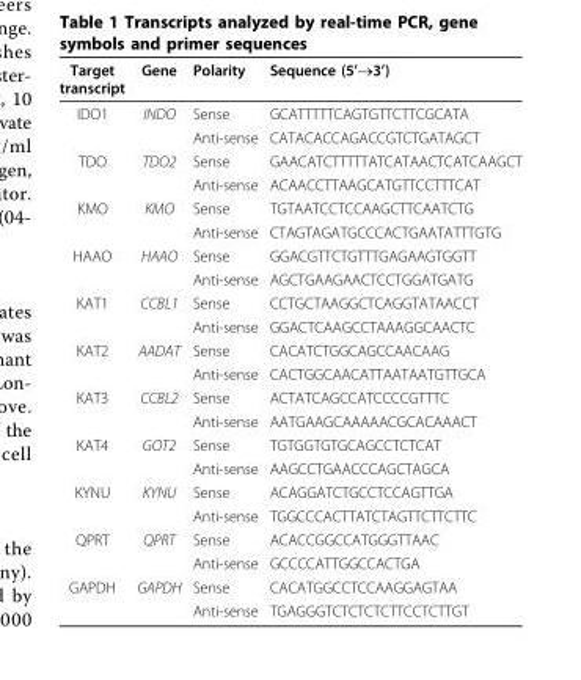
<table><thead><tr><td>Target transcript</td><td>Gene</td><td>Polarity</td><td>Sequence (5’→3’)</td></tr></thead><tbody><tr><td rowspan="2">IDO1</td><td>INDO</td><td>Sense</td><td>GCATTTTTCAGTGTTCTTCGCATA</td></tr><tr><td></td><td>Anti-sense</td><td>CATACACCAGACCGTCTGATAGCT</td></tr><tr><td rowspan="2">TDO</td><td>TDO2</td><td>Sense</td><td>GAACATCTTTTTATCATAACTCATCAAGCT</td></tr><tr><td></td><td>Anti-sense</td><td>ACAACCTTAAGCATGTTCCTTTCAT</td></tr><tr><td rowspan="2">KMO</td><td>KMO</td><td>Sense</td><td>TGTAATCCTCCAAGCTTCAATCTG</td></tr><tr><td></td><td>Anti-sense</td><td>CTAGTAGATGCCCACTGAATATTTGTG</td></tr><tr><td rowspan="2">HAAO</td><td>HAAO</td><td>Sense</td><td>GGACGTTCTGTTTGAGAAGTGGTT</td></tr><tr><td></td><td>Anti-sense</td><td>AGCTGAAGAACTCCTGGATGATG</td></tr><tr><td rowspan="2">KAT1</td><td>CCBL1</td><td>Sense</td><td>CCTGCTAAGGCTCAGGTATAACCT</td></tr><tr><td></td><td>Anti-sense</td><td>GGACTCAAGCCTAAAGGCAACTC</td></tr><tr><td rowspan="2">KAT2</td><td>AADAT</td><td>Sense</td><td>CACATCTGGCAGCCAACAAG</td></tr><tr><td></td><td>Anti-sense</td><td>CACTGGCAACATTAATAATGTTGCA</td></tr><tr><td rowspan="2">KAT3</td><td>CCBL2</td><td>Sense</td><td>ACTATCAGCCATCCCCGTTTC</td></tr><tr><td></td><td>Anti-sense</td><td>AATGAAGCAAAAACGCACAAACT</td></tr><tr><td rowspan="2">KAT4</td><td>GOT2</td><td>Sense</td><td>TGTGGTGTGCAGCCTCTCAT</td></tr><tr><td></td><td>Anti-sense</td><td>AAGCCTGAACCCAGCTAGCA</td></tr><tr><td rowspan="2">KYNU</td><td>KYNU</td><td>Sense</td><td>ACAGGATCTGCCTCCAGTTGA</td></tr><tr><td></td><td>Anti-sense</td><td>TGGCCCACTTATCTAGTTCTTCTTC</td></tr><tr><td rowspan="2">QPRT</td><td>QPRT</td><td>Sense</td><td>ACACCGGCCATGGGTTAAC</td></tr><tr><td></td><td>Anti-sense</td><td>GCCCCATTGGCCACTGA</td></tr><tr><td rowspan="2">GAPDH</td><td>GAPDH</td><td>Sense</td><td>CACATGGCCTCCAAGGAGTAA</td></tr><tr><td></td><td>Anti-sense</td><td>TGAGGGTCTCTCTCTTCCTCTTGT</td></tr></tbody></table>